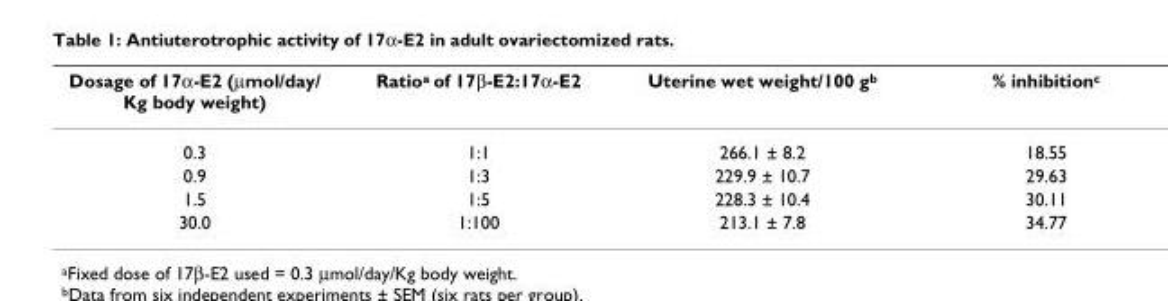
<table><thead><tr><td>Dosage of 17α-E2 (µmol/day/ Kg body weight)</td><td>Ratioa of 17β-E2:17α-E2</td><td>Uterine wet weight/100 g<sup>b</sup></td><td>% inhibition<sup>c</sup></td></tr></thead><tbody><tr><td>0.3</td><td>1:1</td><td>266.1 ± 8.2</td><td>18.55</td></tr><tr><td>0.9</td><td>1:3</td><td>229.9 ± 10.7</td><td>29.63</td></tr><tr><td>1.5</td><td>1:5</td><td>228.3 ± 10.4</td><td>30.11</td></tr><tr><td>30.0</td><td>1:100</td><td>213.1 ± 7.8</td><td>34.77</td></tr></tbody></table>